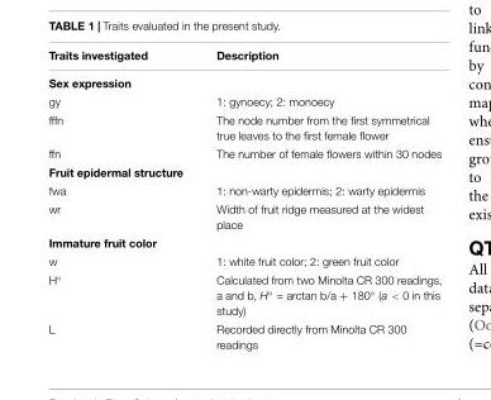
<table><thead><tr><td>Traits investigated</td><td>Description</td></tr></thead><tbody><tr><td colspan="2">Sex expression</td></tr><tr><td>gy</td><td>1: gynoecy; 2: monoecy</td></tr><tr><td>fffn</td><td>The node number from the first symmetrical true leaves to the first female flower</td></tr><tr><td>ffn</td><td>The number of female flowers within 30 nodes</td></tr><tr><td colspan="2">Fruit epidermal structure</td></tr><tr><td>fwa</td><td>1: non-warty epidermis; 2: warty epidermis</td></tr><tr><td>wr</td><td>Width of fruit ridge measured at the widest place</td></tr><tr><td colspan="2">Immature fruit color</td></tr><tr><td>w</td><td>1: white fruit color; 2: green fruit color</td></tr><tr><td>H◦</td><td>Calculated from two Minolta CR 300 readings, a and b, H◦ = arctan b/a + 180◦ (a &lt; 0 in this study)</td></tr><tr><td>L</td><td>Recorded directly from Minolta CR 300 readings</td></tr></tbody></table>